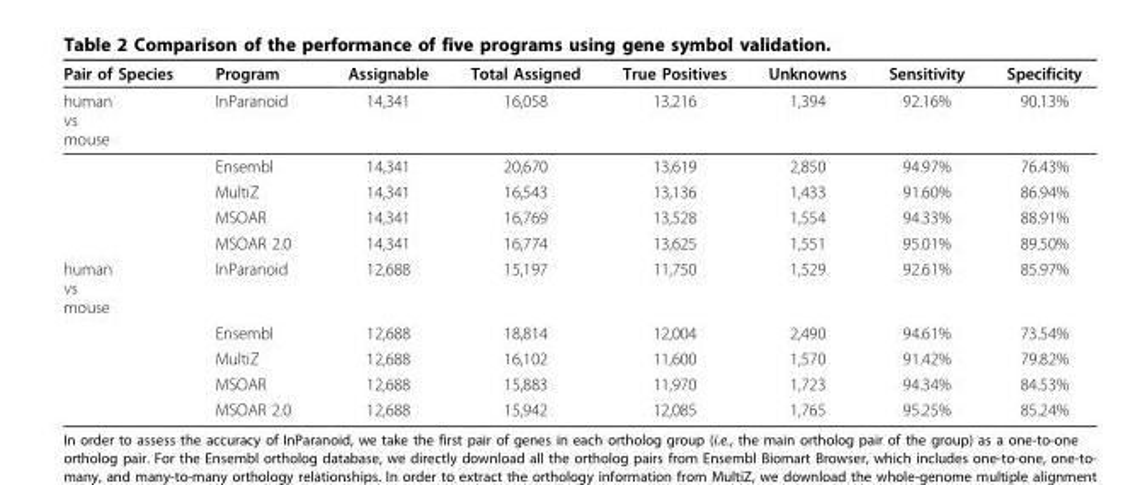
<table><thead><tr><td>Pair of Species</td><td>Program</td><td>Assignable</td><td>Total Assigned</td><td>True Positives</td><td>Unknowns</td><td>Sensitivity</td><td>Specificity</td></tr></thead><tbody><tr><td rowspan="5">human vs mouse</td><td>InParanoid</td><td>14,341</td><td>16,058</td><td>13,216</td><td>1,394</td><td>92.16%</td><td>90.13%</td></tr><tr><td>Ensembl</td><td>14,341</td><td>20,670</td><td>13,619</td><td>2,850</td><td>94.97%</td><td>76.43%</td></tr><tr><td>MultiZ</td><td>14,341</td><td>16,543</td><td>13,136</td><td>1,433</td><td>91.60%</td><td>86.94%</td></tr><tr><td>MSOAR</td><td>14,341</td><td>16,769</td><td>13,528</td><td>1,554</td><td>94.33%</td><td>88.91%</td></tr><tr><td>MSOAR 2.0</td><td>14,341</td><td>16,774</td><td>13,625</td><td>1,551</td><td>95.01%</td><td>89.50%</td></tr><tr><td rowspan="5">human vs mouse</td><td>InParanoid</td><td>12,688</td><td>15,197</td><td>11,750</td><td>1,529</td><td>92.61%</td><td>85.97%</td></tr><tr><td>Ensembl</td><td>12,688</td><td>18,814</td><td>12,004</td><td>2,490</td><td>94.61%</td><td>73.54%</td></tr><tr><td>MultiZ</td><td>12,688</td><td>16,102</td><td>11,600</td><td>1,570</td><td>91.42%</td><td>79.82%</td></tr><tr><td>MSOAR</td><td>12,688</td><td>15,883</td><td>11,970</td><td>1,723</td><td>94.34%</td><td>84.53%</td></tr><tr><td>MSOAR 2.0</td><td>12,688</td><td>15,942</td><td>12,085</td><td>1,765</td><td>95.25%</td><td>85.24%</td></tr></tbody></table>